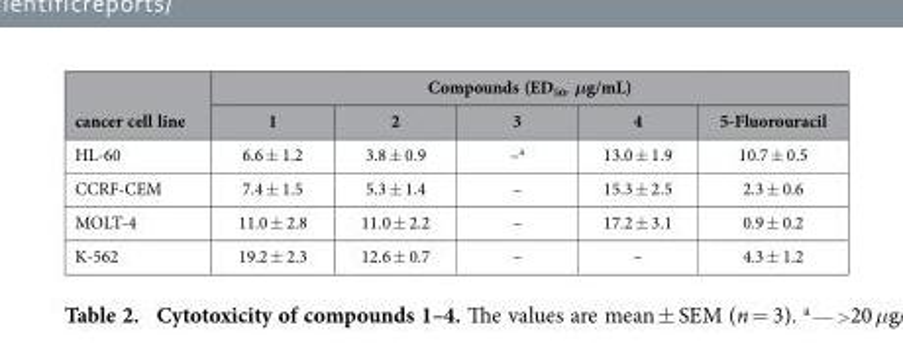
<table><thead><tr><td rowspan="2">cancer cell line</td><td colspan="5">Compounds (ED<sub>50</sub>, μg/mL)</td></tr><tr><td>1</td><td>2</td><td>3</td><td>4</td><td>5-Fluorouracil</td></tr></thead><tbody><tr><td>HL-60</td><td>6.6 ± 1.2</td><td>3.8 ± 0.9</td><td>–a</td><td>13.0 ± 1.9</td><td>10.7 ± 0.5</td></tr><tr><td>CCRF-CEM</td><td>7.4 ± 1.5</td><td>5.3 ± 1.4</td><td>–</td><td>15.3 ± 2.5</td><td>2.3 ± 0.6</td></tr><tr><td>MOLT-4</td><td>11.0 ± 2.8</td><td>11.0 ± 2.2</td><td>–</td><td>17.2 ± 3.1</td><td>0.9 ± 0.2</td></tr><tr><td>K-562</td><td>19.2 ± 2.3</td><td>12.6 ± 0.7</td><td>–</td><td>–</td><td>4.3 ± 1.2</td></tr></tbody></table>